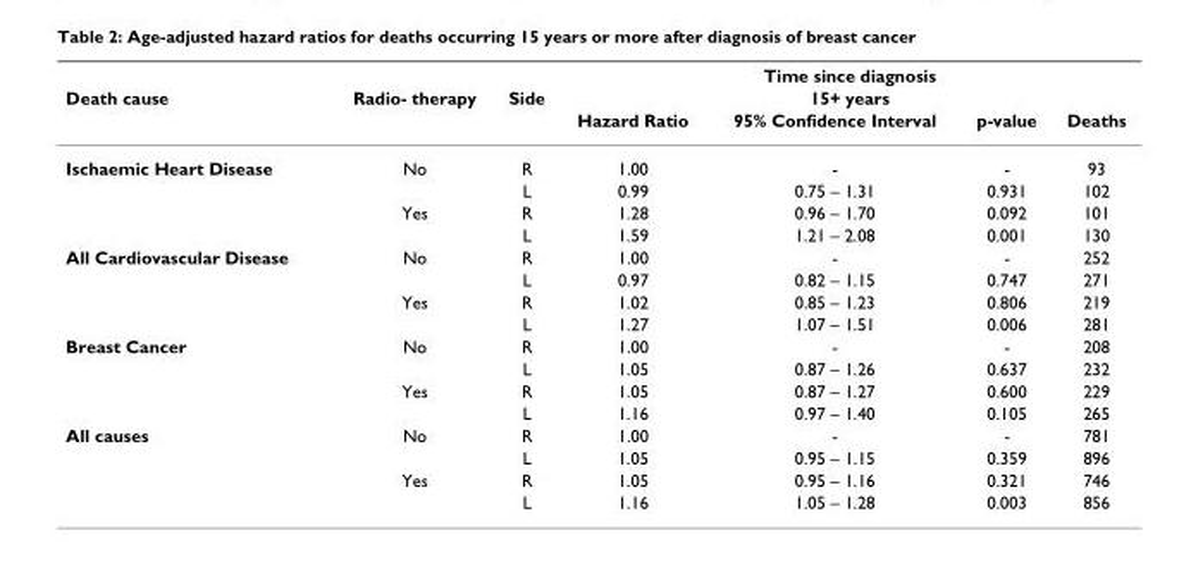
<table><thead><tr><td rowspan="3">Death cause</td><td rowspan="3">Radio- therapy</td><td rowspan="3">Side</td><td rowspan="2" colspan="4">Time since diagnosis 15+ years</td></tr><tr></tr><tr><td>Hazard Ratio</td><td>95% Confidence Interval</td><td>p-value</td><td>Deaths</td></tr></thead><tbody><tr><td rowspan="4">Ischaemic Heart Disease</td><td>No</td><td>R</td><td>1.00</td><td>-</td><td>-</td><td>93</td></tr><tr><td></td><td>L</td><td>0.99</td><td>0.75 – 1.31</td><td>0.931</td><td>102</td></tr><tr><td>Yes</td><td>R</td><td>1.28</td><td>0.96 – 1.70</td><td>0.092</td><td>101</td></tr><tr><td></td><td>L</td><td>1.59</td><td>1.21 – 2.08</td><td>0.001</td><td>130</td></tr><tr><td rowspan="4">All Cardiovascular Disease</td><td>No</td><td>R</td><td>1.00</td><td>-</td><td>-</td><td>252</td></tr><tr><td></td><td>L</td><td>0.97</td><td>0.82 – 1.15</td><td>0.747</td><td>271</td></tr><tr><td>Yes</td><td>R</td><td>1.02</td><td>0.85 – 1.23</td><td>0.806</td><td>219</td></tr><tr><td></td><td>L</td><td>1.27</td><td>1.07 – 1.51</td><td>0.006</td><td>281</td></tr><tr><td rowspan="4">Breast Cancer</td><td>No</td><td>R</td><td>1.00</td><td>-</td><td>-</td><td>208</td></tr><tr><td></td><td>L</td><td>1.05</td><td>0.87 – 1.26</td><td>0.637</td><td>232</td></tr><tr><td>Yes</td><td>R</td><td>1.05</td><td>0.87 – 1.27</td><td>0.600</td><td>229</td></tr><tr><td></td><td>L</td><td>1.16</td><td>0.97 – 1.40</td><td>0.105</td><td>265</td></tr><tr><td rowspan="4">All causes</td><td>No</td><td>R</td><td>1.00</td><td>-</td><td>-</td><td>781</td></tr><tr><td></td><td>L</td><td>1.05</td><td>0.95 – 1.15</td><td>0.359</td><td>896</td></tr><tr><td>Yes</td><td>R</td><td>1.05</td><td>0.95 – 1.16</td><td>0.321</td><td>746</td></tr><tr><td></td><td>L</td><td>1.16</td><td>1.05 – 1.28</td><td>0.003</td><td>856</td></tr></tbody></table>